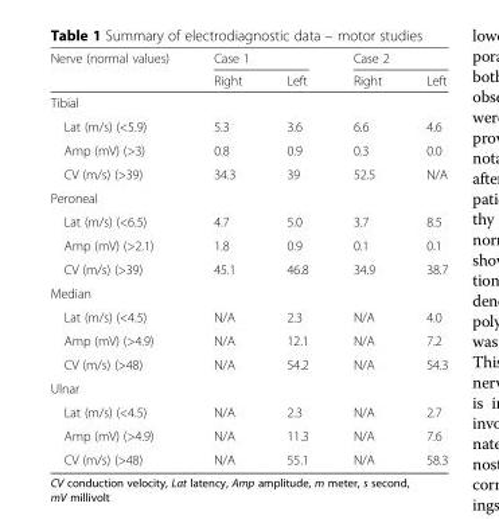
<table><thead><tr><td rowspan="2">Nerve (normal values)</td><td colspan="2">Case 1</td><td colspan="2">Case 2</td></tr><tr><td>Right</td><td>Left</td><td>Right</td><td>Left</td></tr></thead><tbody><tr><td colspan="5">Tibial</td></tr><tr><td>Lat (m/s) (&lt;5.9)</td><td>5.3</td><td>3.6</td><td>6.6</td><td>4.6</td></tr><tr><td>Amp (mV) (&gt;3)</td><td>0.8</td><td>0.9</td><td>0.3</td><td>0.0</td></tr><tr><td>CV (m/s) (&gt;39)</td><td>34.3</td><td>39</td><td>52.5</td><td>N/A</td></tr><tr><td colspan="5">Peroneal</td></tr><tr><td>Lat (m/s) (&lt;6.5)</td><td>4.7</td><td>5.0</td><td>3.7</td><td>8.5</td></tr><tr><td>Amp (mV) (&gt;2.1)</td><td>1.8</td><td>0.9</td><td>0.1</td><td>0.1</td></tr><tr><td>CV (m/s) (&gt;39)</td><td>45.1</td><td>46.8</td><td>34.9</td><td>38.7</td></tr><tr><td colspan="5">Median</td></tr><tr><td>Lat (m/s) (&lt;4.5)</td><td>N/A</td><td>2.3</td><td>N/A</td><td>4.0</td></tr><tr><td>Amp (mV) (&gt;4.9)</td><td>N/A</td><td>12.1</td><td>N/A</td><td>7.2</td></tr><tr><td>CV (m/s) (&gt;48)</td><td>N/A</td><td>54.2</td><td>N/A</td><td>54.3</td></tr><tr><td colspan="5">Ulnar</td></tr><tr><td>Lat (m/s) (&lt;4.5)</td><td>N/A</td><td>2.3</td><td>N/A</td><td>2.7</td></tr><tr><td>Amp (mV) (&gt;4.9)</td><td>N/A</td><td>11.3</td><td>N/A</td><td>7.6</td></tr><tr><td>CV (m/s) (&gt;48)</td><td>N/A</td><td>55.1</td><td>N/A</td><td>58.3</td></tr></tbody></table>